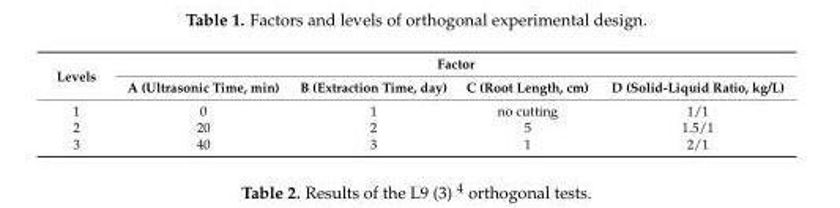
<table><thead><tr><td rowspan="2">Levels</td><td colspan="4">Factor</td></tr><tr><td>A (Ultrasonic Time, min)</td><td>B (Extraction Time, day)</td><td>C (Root Length, cm)</td><td>D (Solid-Liquid Ratio, kg/L)</td></tr></thead><tbody><tr><td>1</td><td>0</td><td>1</td><td>no cutting</td><td>1/1</td></tr><tr><td>2</td><td>20</td><td>2</td><td>5</td><td>1.5/1</td></tr><tr><td>3</td><td>40</td><td>3</td><td>1</td><td>2/1</td></tr></tbody></table>